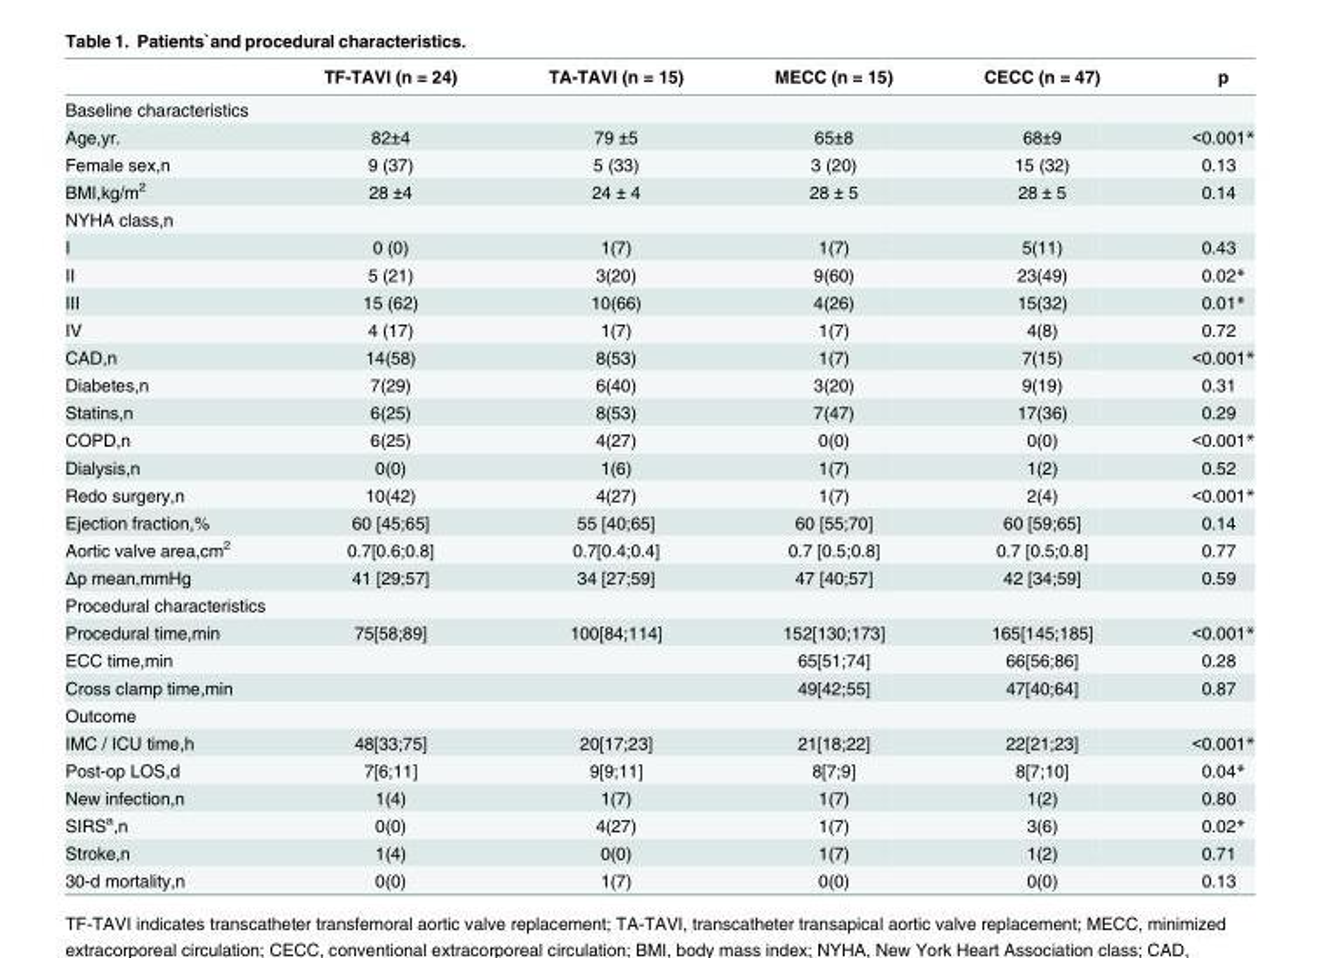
<table><thead><tr><td></td><td>TF-TAVI (n = 24)</td><td>TA-TAVI (n = 15)</td><td>MECC (n = 15)</td><td>CECC (n = 47)</td><td>p</td></tr></thead><tbody><tr><td colspan="6">Baseline characteristics</td></tr><tr><td>Age,yr.</td><td>82±4</td><td>79 ±5</td><td>65±8</td><td>68±9</td><td>&lt;0.001*</td></tr><tr><td>Female sex,n</td><td>9 (37)</td><td>5 (33)</td><td>3 (20)</td><td>15 (32)</td><td>0.13</td></tr><tr><td>BMI,kg/m<sup>2</sup></td><td>28 ±4</td><td>24 ± 4</td><td>28 ± 5</td><td>28 ± 5</td><td>0.14</td></tr><tr><td colspan="6">NYHA class,n</td></tr><tr><td>I</td><td>0 (0)</td><td>1(7)</td><td>1(7)</td><td>5(11)</td><td>0.43</td></tr><tr><td>II</td><td>5 (21)</td><td>3(20)</td><td>9(60)</td><td>23(49)</td><td>0.02*</td></tr><tr><td>III</td><td>15 (62)</td><td>10(66)</td><td>4(26)</td><td>15(32)</td><td>0.01*</td></tr><tr><td>IV</td><td>4 (17)</td><td>1(7)</td><td>1(7)</td><td>4(8)</td><td>0.72</td></tr><tr><td>CAD,n</td><td>14(58)</td><td>8(53)</td><td>1(7)</td><td>7(15)</td><td>&lt;0.001*</td></tr><tr><td>Diabetes,n</td><td>7(29)</td><td>6(40)</td><td>3(20)</td><td>9(19)</td><td>0.31</td></tr><tr><td>Statins,n</td><td>6(25)</td><td>8(53)</td><td>7(47)</td><td>17(36)</td><td>0.29</td></tr><tr><td>COPD,n</td><td>6(25)</td><td>4(27)</td><td>0(0)</td><td>0(0)</td><td>&lt;0.001*</td></tr><tr><td>Dialysis,n</td><td>0(0)</td><td>1(6)</td><td>1(7)</td><td>1(2)</td><td>0.52</td></tr><tr><td>Redo surgery,n</td><td>10(42)</td><td>4(27)</td><td>1(7)</td><td>2(4)</td><td>&lt;0.001*</td></tr><tr><td>Ejection fraction,%</td><td>60 [45;65]</td><td>55 [40;65]</td><td>60 [55;70]</td><td>60 [59;65]</td><td>0.14</td></tr><tr><td>Aortic valve area,cm<sup>2</sup></td><td>0.7[0.6;0.8]</td><td>0.7[0.4;0.4]</td><td>0.7 [0.5;0.8]</td><td>0.7 [0.5;0.8]</td><td>0.77</td></tr><tr><td>Δp mean,mmHg</td><td>41 [29;57]</td><td>34 [27;59]</td><td>47 [40;57]</td><td>42 [34;59]</td><td>0.59</td></tr><tr><td colspan="6">Procedural characteristics</td></tr><tr><td>Procedural time,min</td><td>75[58;89]</td><td>100[84;114]</td><td>152[130;173]</td><td>165[145;185]</td><td>&lt;0.001*</td></tr><tr><td>ECC time,min</td><td></td><td></td><td>65[51;74]</td><td>66[56;86]</td><td>0.28</td></tr><tr><td>Cross clamp time,min</td><td></td><td></td><td>49[42;55]</td><td>47[40;64]</td><td>0.87</td></tr><tr><td colspan="6">Outcome</td></tr><tr><td>IMC / ICU time,h</td><td>48[33;75]</td><td>20[17;23]</td><td>21[18;22]</td><td>22[21;23]</td><td>&lt;0.001*</td></tr><tr><td>Post-op LOS,d</td><td>7[6;11]</td><td>9[9;11]</td><td>8[7;9]</td><td>8[7;10]</td><td>0.04*</td></tr><tr><td>New infection,n</td><td>1(4)</td><td>1(7)</td><td>1(7)</td><td>1(2)</td><td>0.80</td></tr><tr><td>SIRS<sup>a</sup>,n</td><td>0(0)</td><td>4(27)</td><td>1(7)</td><td>3(6)</td><td>0.02*</td></tr><tr><td>Stroke,n</td><td>1(4)</td><td>0(0)</td><td>1(7)</td><td>1(2)</td><td>0.71</td></tr><tr><td>30-d mortality,n</td><td>0(0)</td><td>1(7)</td><td>0(0)</td><td>0(0)</td><td>0.13</td></tr></tbody></table>